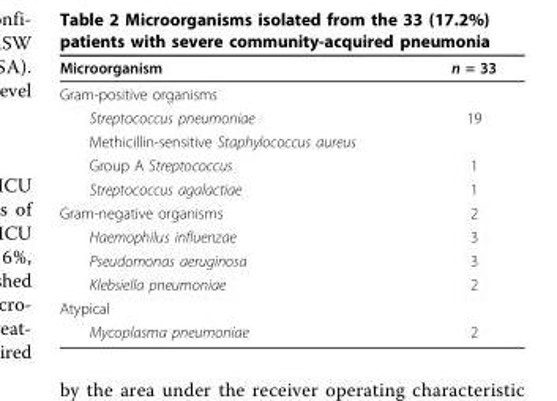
<table><thead><tr><td>Microorganism</td><td>n = 33</td></tr></thead><tbody><tr><td colspan="2">Gram-positive organisms</td></tr><tr><td>Streptococcus pneumoniae</td><td>19</td></tr><tr><td colspan="2">Methicillin-sensitive Staphylococcus aureus</td></tr><tr><td>Group A Streptococcus</td><td>1</td></tr><tr><td>Streptococcus agalactiae</td><td>1</td></tr><tr><td>Gram-negative organisms</td><td>2</td></tr><tr><td>Haemophilus influenzae</td><td>3</td></tr><tr><td>Pseudomonas aeruginosa</td><td>3</td></tr><tr><td>Klebsiella pneumoniae</td><td>2</td></tr><tr><td colspan="2">Atypical</td></tr><tr><td>Mycoplasma pneumoniae</td><td>2</td></tr></tbody></table>